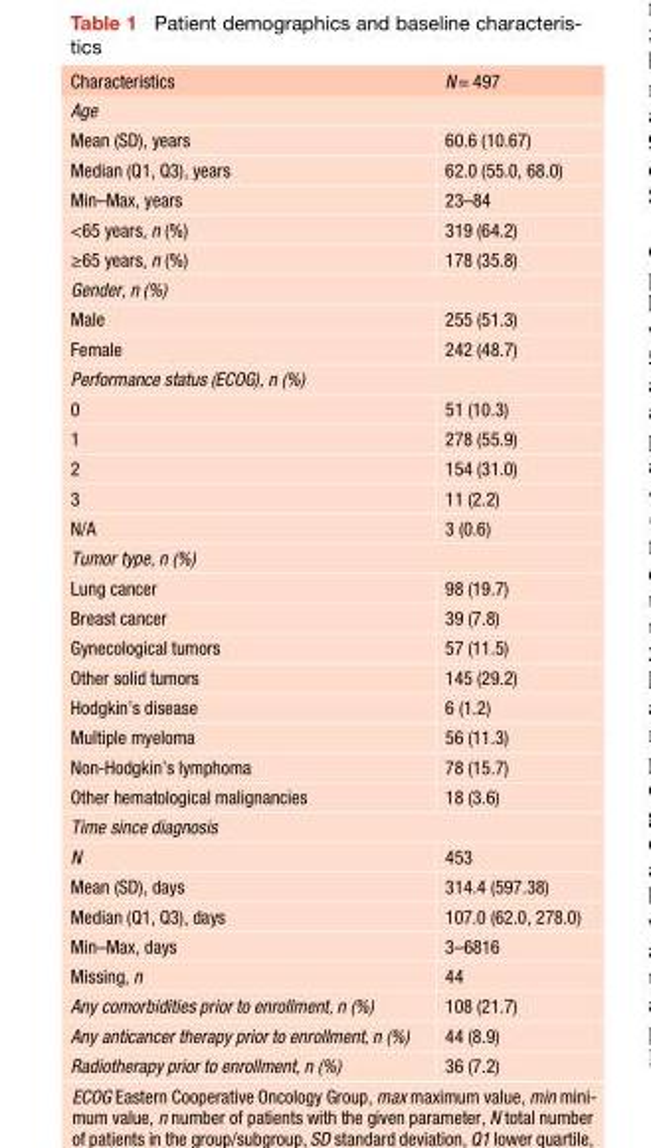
<table><thead><tr><td>Characteristics</td><td>N= 497</td></tr></thead><tbody><tr><td colspan="2">Age</td></tr><tr><td>Mean (SD), years</td><td>60.6 (10.67)</td></tr><tr><td>Median (Q1, Q3), years</td><td>62.0 (55.0, 68.0)</td></tr><tr><td>Min–Max, years</td><td>23–84</td></tr><tr><td>&lt;65 years, n (%)</td><td>319 (64.2)</td></tr><tr><td>≥65 years, n (%)</td><td>178 (35.8)</td></tr><tr><td colspan="2">Gender, n (%)</td></tr><tr><td>Male</td><td>255 (51.3)</td></tr><tr><td>Female</td><td>242 (48.7)</td></tr><tr><td colspan="2">Performance status (ECOG), n (%)</td></tr><tr><td>0</td><td>51 (10.3)</td></tr><tr><td>1</td><td>278 (55.9)</td></tr><tr><td>2</td><td>154 (31.0)</td></tr><tr><td>3</td><td>11 (2.2)</td></tr><tr><td>N/A</td><td>3 (0.6)</td></tr><tr><td colspan="2">Tumor type, n (%)</td></tr><tr><td>Lung cancer</td><td>98 (19.7)</td></tr><tr><td>Breast cancer</td><td>39 (7.8)</td></tr><tr><td>Gynecological tumors</td><td>57 (11.5)</td></tr><tr><td>Other solid tumors</td><td>145 (29.2)</td></tr><tr><td>Hodgkin’s disease</td><td>6 (1.2)</td></tr><tr><td>Multiple myeloma</td><td>56 (11.3)</td></tr><tr><td>Non-Hodgkin’s lymphoma</td><td>78 (15.7)</td></tr><tr><td>Other hematological malignancies</td><td>18 (3.6)</td></tr><tr><td colspan="2">Time since diagnosis</td></tr><tr><td>N</td><td>453</td></tr><tr><td>Mean (SD), days</td><td>314.4 (597.38)</td></tr><tr><td>Median (Q1, Q3), days</td><td>107.0 (62.0, 278.0)</td></tr><tr><td>Min–Max, days</td><td>3–6816</td></tr><tr><td>Missing, n</td><td>44</td></tr><tr><td>Any comorbidities prior to enrollment, n (%)</td><td>108 (21.7)</td></tr><tr><td>Any anticancer therapy prior to enrollment, n (%)</td><td>44 (8.9)</td></tr><tr><td>Radiotherapy prior to enrollment, n (%)</td><td>36 (7.2)</td></tr></tbody></table>